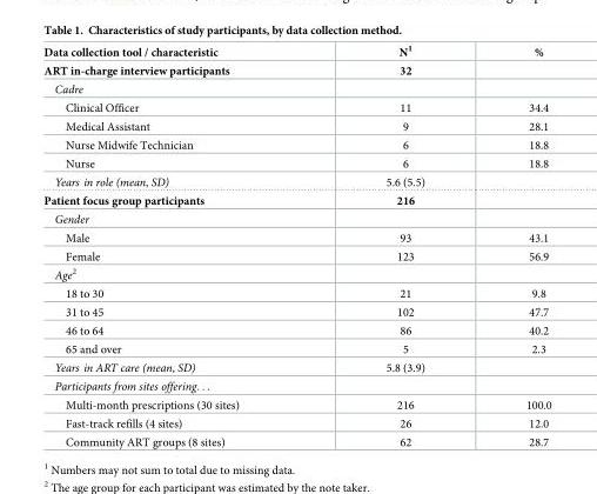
<table><thead><tr><td>Data collection tool / characteristic</td><td>N<sup>1</sup></td><td>%</td></tr></thead><tbody><tr><td>ART in-charge interview participants</td><td>32</td><td></td></tr><tr><td colspan="3">Cadre</td></tr><tr><td>Clinical Officer</td><td>11</td><td>34.4</td></tr><tr><td>Medical Assistant</td><td>9</td><td>28.1</td></tr><tr><td>Nurse Midwife Technician</td><td>6</td><td>18.8</td></tr><tr><td>Nurse</td><td>6</td><td>18.8</td></tr><tr><td>Years in role (mean, SD)</td><td>5.6 (5.5)</td><td></td></tr><tr><td>Patient focus group participants</td><td>216</td><td></td></tr><tr><td colspan="3">Gender</td></tr><tr><td>Male</td><td>93</td><td>43.1</td></tr><tr><td>Female</td><td>123</td><td>56.9</td></tr><tr><td colspan="3">Age<sup>2</sup></td></tr><tr><td>18 to 30</td><td>21</td><td>9.8</td></tr><tr><td>31 to 45</td><td>102</td><td>47.7</td></tr><tr><td>46 to 64</td><td>86</td><td>40.2</td></tr><tr><td>65 and over</td><td>5</td><td>2.3</td></tr><tr><td>Years in ART care (mean, SD)</td><td>5.8 (3.9)</td><td></td></tr><tr><td colspan="3">Participants from sites offering. . .</td></tr><tr><td>Multi-month prescriptions (30 sites)</td><td>216</td><td>100.0</td></tr><tr><td>Fast-track refills (4 sites)</td><td>26</td><td>12.0</td></tr><tr><td>Community ART groups (8 sites)</td><td>62</td><td>28.7</td></tr></tbody></table>